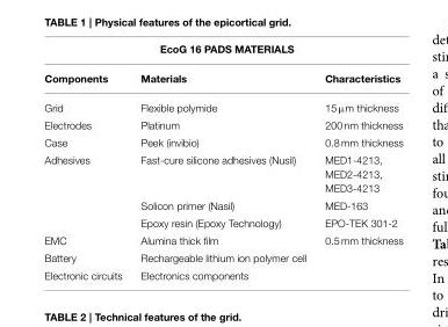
<table><thead><tr><td colspan="3">EcoG 16 PADS MATERIALS</td></tr><tr><td>Components</td><td>Materials</td><td>Characteristics</td></tr></thead><tbody><tr><td>Grid</td><td>Flexible polymide</td><td>15 µm thickness</td></tr><tr><td>Electrodes</td><td>Platinum</td><td>200 nm thickness</td></tr><tr><td>Case</td><td>Peek (invibio)</td><td>0.8 mm thickness</td></tr><tr><td rowspan="3">Adhesives</td><td>Fast-cure silicone adhesives (Nusil)</td><td>MED1-4213, MED2-4213, MED3-4213</td></tr><tr><td>Solicon primer (Nasil)</td><td>MED-163</td></tr><tr><td>Epoxy resin (Epoxy Technology)</td><td>EPO-TEK 301-2</td></tr><tr><td>EMC</td><td>Alumina thick film</td><td>0.5 mm thickness</td></tr><tr><td>Battery</td><td>Rechargeable lithium ion polymer cell</td><td></td></tr><tr><td>Electronic circuits</td><td>Electronics components</td><td></td></tr></tbody></table>